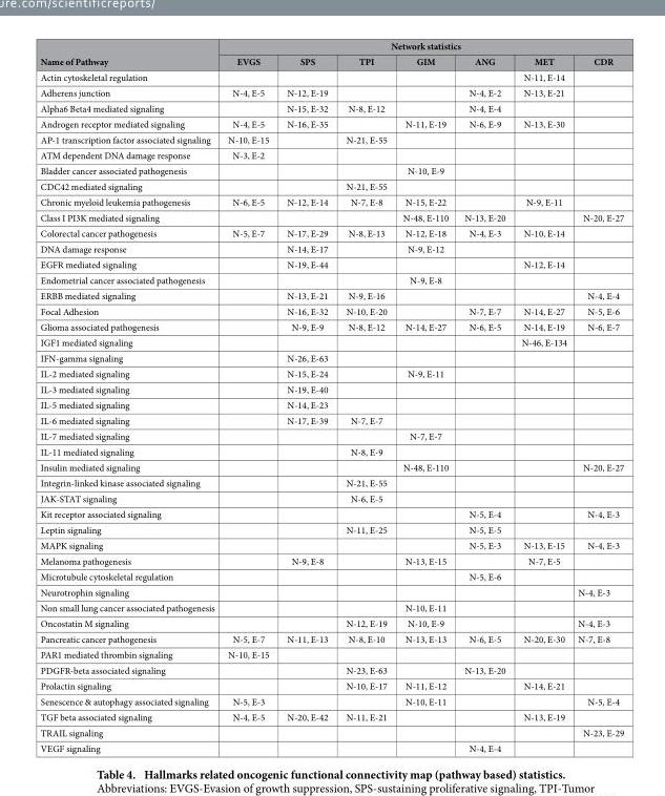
<table><thead><tr><td rowspan="2">Name of Pathway</td><td colspan="7">Network statistics</td></tr><tr><td>EVGS</td><td>SPS</td><td>TPI</td><td>GIM</td><td>ANG</td><td>MET</td><td>CDR</td></tr></thead><tbody><tr><td>Actin cytoskeletal regulation</td><td></td><td></td><td></td><td></td><td></td><td>N-11, E-14</td><td></td></tr><tr><td>Adherens junction</td><td>N-4, E-5</td><td>N-12, E-19</td><td></td><td></td><td>N-4, E-2</td><td>N-13, E-21</td><td></td></tr><tr><td>Alpha6 Beta4 mediated signaling</td><td></td><td>N-15, E-32</td><td>N-8, E-12</td><td></td><td>N-4, E-4</td><td></td><td></td></tr><tr><td>Androgen receptor mediated signaling</td><td>N-4, E-5</td><td>N-16, E-35</td><td></td><td>N-11, E-19</td><td>N-6, E-9</td><td>N-13, E-30</td><td></td></tr><tr><td>AP-1 transcription factor associated signaling</td><td>N-10, E-15</td><td></td><td>N-21, E-55</td><td></td><td></td><td></td><td></td></tr><tr><td>ATM dependent DNA damage response</td><td>N-3, E-2</td><td></td><td></td><td></td><td></td><td></td><td></td></tr><tr><td>Bladder cancer associated pathogenesis</td><td></td><td></td><td></td><td>N-10, E-9</td><td></td><td></td><td></td></tr><tr><td>CDC42 mediated signaling</td><td></td><td></td><td>N-21, E-55</td><td></td><td></td><td></td><td></td></tr><tr><td>Chronic myeloid leukemia pathogenesis</td><td>N-6, E-5</td><td>N-12, E-14</td><td>N-7, E-8</td><td>N-15, E-22</td><td></td><td>N-9, E-11</td><td></td></tr><tr><td>Class I PI3K mediated signaling</td><td></td><td></td><td></td><td>N-48, E-110</td><td>N-13, E-20</td><td></td><td>N-20, E-27</td></tr><tr><td>Colorectal cancer pathogenesis</td><td>N-5, E-7</td><td>N-17, E-29</td><td>N-8, E-13</td><td>N-12, E-18</td><td>N-4, E-3</td><td>N-10, E-14</td><td></td></tr><tr><td>DNA damage response</td><td></td><td>N-14, E-17</td><td></td><td>N-9, E-12</td><td></td><td></td><td></td></tr><tr><td>EGFR mediated signaling</td><td></td><td>N-19, E-44</td><td></td><td></td><td></td><td>N-12, E-14</td><td></td></tr><tr><td>Endometrial cancer associated pathogenesis</td><td></td><td></td><td></td><td>N-9, E-8</td><td></td><td></td><td></td></tr><tr><td>ERBB mediated signaling</td><td></td><td>N-13, E-21</td><td>N-9, E-16</td><td></td><td></td><td></td><td>N-4, E-4</td></tr><tr><td>Focal Adhesion</td><td></td><td>N-16, E-32</td><td>N-10, E-20</td><td></td><td>N-7, E-7</td><td>N-14, E-27</td><td>N-5, E-6</td></tr><tr><td>Glioma associated pathogenesis</td><td></td><td>N-9, E-9</td><td>N-8, E-12</td><td>N-14, E-27</td><td>N-6, E-5</td><td>N-14, E-19</td><td>N-6, E-7</td></tr><tr><td>IGF1 mediated signaling</td><td></td><td></td><td></td><td></td><td></td><td>N-46, E-134</td><td></td></tr><tr><td>IFN-gamma signaling</td><td></td><td>N-26, E-63</td><td></td><td></td><td></td><td></td><td></td></tr><tr><td>IL-2 mediated signaling</td><td></td><td>N-15, E-24</td><td></td><td>N-9, E-11</td><td></td><td></td><td></td></tr><tr><td>IL-3 mediated signaling</td><td></td><td>N-19, E-40</td><td></td><td></td><td></td><td></td><td></td></tr><tr><td>IL-5 mediated signaling</td><td></td><td>N-14, E-23</td><td></td><td></td><td></td><td></td><td></td></tr><tr><td>IL-6 mediated signaling</td><td></td><td>N-17, E-39</td><td>N-7, E-7</td><td></td><td></td><td></td><td></td></tr><tr><td>IL-7 mediated signaling</td><td></td><td></td><td></td><td>N-7, E-7</td><td></td><td></td><td></td></tr><tr><td>IL-11 mediated signaling</td><td></td><td></td><td>N-8, E-9</td><td></td><td></td><td></td><td></td></tr><tr><td>Insulin mediated signaling</td><td></td><td></td><td></td><td>N-48, E-110</td><td></td><td></td><td>N-20, E-27</td></tr><tr><td>Integrin-linked kinase associated signaling</td><td></td><td></td><td>N-21, E-55</td><td></td><td></td><td></td><td></td></tr><tr><td>JAK-STAT signaling</td><td></td><td></td><td>N-6, E-5</td><td></td><td></td><td></td><td></td></tr><tr><td>Kit receptor associated signaling</td><td></td><td></td><td></td><td></td><td>N-5, E-4</td><td></td><td>N-4, E-3</td></tr><tr><td>Leptin signaling</td><td></td><td></td><td>N-11, E-25</td><td></td><td>N-5, E-5</td><td></td><td></td></tr><tr><td>MAPK signaling</td><td></td><td></td><td></td><td></td><td>N-5, E-3</td><td>N-13, E-15</td><td>N-4, E-3</td></tr><tr><td>Melanoma pathogenesis</td><td></td><td>N-9, E-8</td><td></td><td>N-13, E-15</td><td></td><td>N-7, E-5</td><td></td></tr><tr><td>Microtubule cytoskeletal regulation</td><td></td><td></td><td></td><td></td><td>N-5, E-6</td><td></td><td></td></tr><tr><td>Neurotrophin signaling</td><td></td><td></td><td></td><td></td><td></td><td></td><td>N-4, E-3</td></tr><tr><td>Non small lung cancer associated pathogenesis</td><td></td><td></td><td></td><td>N-10, E-11</td><td></td><td></td><td></td></tr><tr><td>Oncostatin M signaling</td><td></td><td></td><td>N-12, E-19</td><td>N-10, E-9</td><td></td><td></td><td>N-4, E-3</td></tr><tr><td>Pancreatic cancer pathogenesis</td><td>N-5, E-7</td><td>N-11, E-13</td><td>N-8, E-10</td><td>N-13, E-13</td><td>N-6, E-5</td><td>N-20, E-30</td><td>N-7, E-8</td></tr><tr><td>PAR1 mediated thrombin signaling</td><td>N-10, E-15</td><td></td><td></td><td></td><td></td><td></td><td></td></tr><tr><td>PDGFR-beta associated signaling</td><td></td><td></td><td>N-23, E-63</td><td></td><td>N-13, E-20</td><td></td><td></td></tr><tr><td>Prolactin signaling</td><td></td><td></td><td>N-10, E-17</td><td>N-11, E-12</td><td></td><td>N-14, E-21</td><td></td></tr><tr><td>Senescence &amp; autophagy associated signaling</td><td>N-5, E-3</td><td></td><td></td><td>N-10, E-11</td><td></td><td></td><td>N-5, E-4</td></tr><tr><td>TGF beta associated signaling</td><td>N-4, E-5</td><td>N-20, E-42</td><td>N-11, E-21</td><td></td><td></td><td>N-13, E-19</td><td></td></tr><tr><td>TRAIL signaling</td><td></td><td></td><td></td><td></td><td></td><td></td><td>N-23, E-29</td></tr><tr><td>VEGF signaling</td><td></td><td></td><td></td><td></td><td>N-4, E-4</td><td></td><td></td></tr></tbody></table>